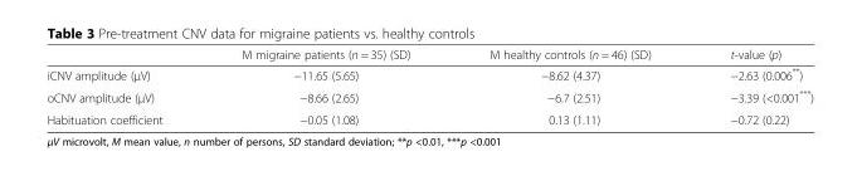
<table><thead><tr><td></td><td>M migraine patients (n = 35) (SD)</td><td>M healthy controls (n = 46) (SD)</td><td>t-value (p)</td></tr></thead><tbody><tr><td>iCNV amplitude (μV)</td><td>−11.65 (5.65)</td><td>−8.62 (4.37)</td><td>−2.63 (0.006**)</td></tr><tr><td>oCNV amplitude (μV)</td><td>−8.66 (2.65)</td><td>−6.7 (2.51)</td><td>−3.39 (&lt;0.001***)</td></tr><tr><td>Habituation coefficient</td><td>−0.05 (1.08)</td><td>0.13 (1.11)</td><td>−0.72 (0.22)</td></tr></tbody></table>